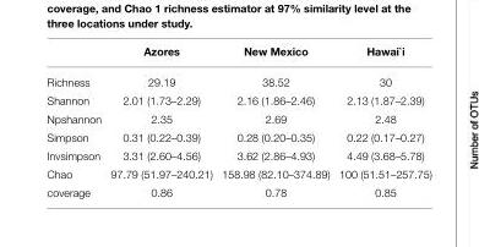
<table><thead><tr><td></td><td>Azores</td><td>New Mexico</td><td>Hawai`i</td></tr></thead><tbody><tr><td>Richness</td><td>29.19</td><td>38.52</td><td>30</td></tr><tr><td>Shannon</td><td>2.01 (1.73–2.29)</td><td>2.16 (1.86–2.46)</td><td>2.13 (1.87–2.39)</td></tr><tr><td>Npshannon</td><td>2.35</td><td>2.69</td><td>2.48</td></tr><tr><td>Simpson</td><td>0.31 (0.22–0.39)</td><td>0.28 (0.20–0.35)</td><td>0.22 (0.17–0.27)</td></tr><tr><td>Invsimpson</td><td>3.31 (2.60–4.56)</td><td>3.62 (2.86–4.93)</td><td>4.49 (3.68–5.78)</td></tr><tr><td>Chao</td><td>97.79 (51.97–240.21)</td><td>158.98 (82.10–374.89)</td><td>100 (51.51–257.75)</td></tr><tr><td>coverage</td><td>0.86</td><td>0.78</td><td>0.85</td></tr></tbody></table>